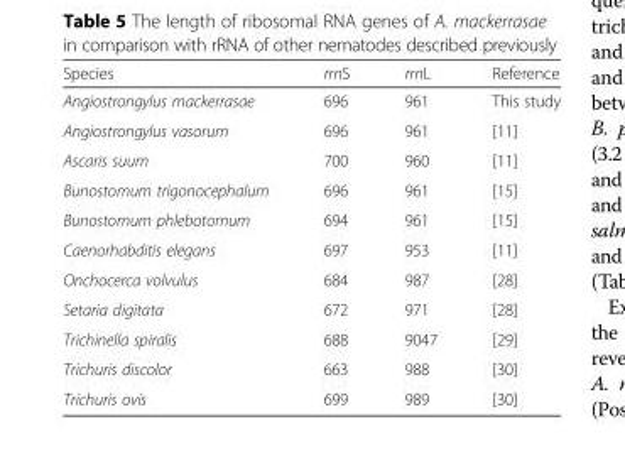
<table><thead><tr><td>Species</td><td>rrnS</td><td>rrnL</td><td>Reference</td></tr></thead><tbody><tr><td>Angiostrongylus mackerrasae</td><td>696</td><td>961</td><td>This study</td></tr><tr><td>Angiostrongylus vasorum</td><td>696</td><td>961</td><td>[11]</td></tr><tr><td>Ascaris suum</td><td>700</td><td>960</td><td>[11]</td></tr><tr><td>Bunostomum trigonocephalum</td><td>696</td><td>961</td><td>[15]</td></tr><tr><td>Bunostomum phlebotomum</td><td>694</td><td>961</td><td>[15]</td></tr><tr><td>Caenorhabditis elegans</td><td>697</td><td>953</td><td>[11]</td></tr><tr><td>Onchocerca volvulus</td><td>684</td><td>987</td><td>[28]</td></tr><tr><td>Setaria digitata</td><td>672</td><td>971</td><td>[28]</td></tr><tr><td>Trichinella spiralis</td><td>688</td><td>9047</td><td>[29]</td></tr><tr><td>Trichuris discolor</td><td>663</td><td>988</td><td>[30]</td></tr><tr><td>Trichuris ovis</td><td>699</td><td>989</td><td>[30]</td></tr></tbody></table>